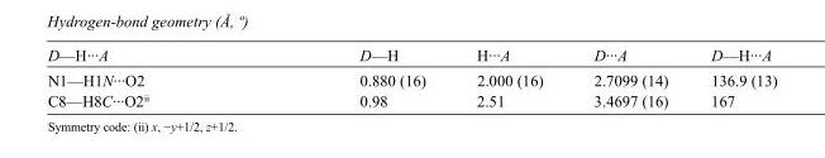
<table><tbody><tr><td>D—H···A</td><td>D—H</td><td>H···A</td><td>D···A</td><td>D—H···A</td></tr><tr><td>N1—H1N···O2</td><td>0.880 (16)</td><td>2.000 (16)</td><td>2.7099 (14)</td><td>136.9 (13)</td></tr><tr><td>C8—H8C···O2<sup>ii</sup></td><td>0.98</td><td>2.51</td><td>3.4697 (16)</td><td>167</td></tr></tbody></table>